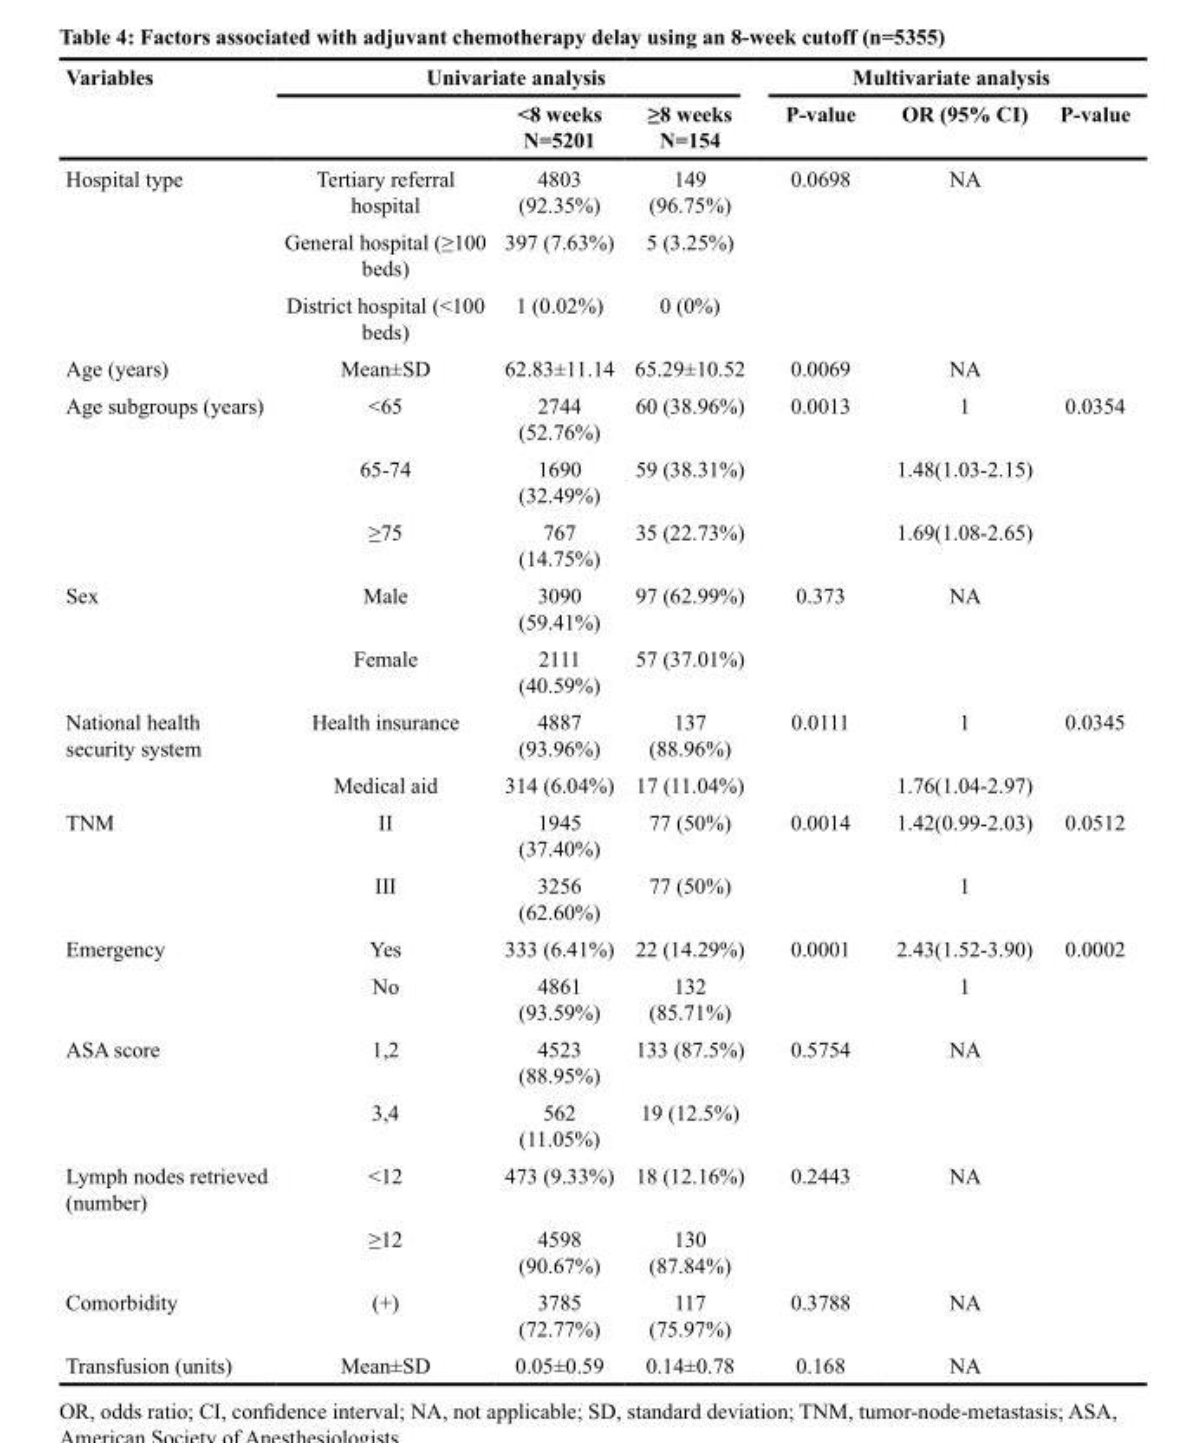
<table><thead><tr><td rowspan="2">Variables</td><td colspan="3">Univariate analysis</td><td colspan="3">Multivariate analysis</td></tr><tr><td></td><td>&lt;8 weeks N=5201</td><td>≥8 weeks N=154</td><td>P-value</td><td>OR (95% CI)</td><td>P-value</td></tr></thead><tbody><tr><td rowspan="3">Hospital type</td><td>Tertiary referral hospital</td><td>4803 (92.35%)</td><td>149 (96.75%)</td><td>0.0698</td><td>NA</td><td></td></tr><tr><td>General hospital (≥100 beds)</td><td>397 (7.63%)</td><td>5 (3.25%)</td><td></td><td></td><td></td></tr><tr><td>District hospital (&lt;100 beds)</td><td>1 (0.02%)</td><td>0 (0%)</td><td></td><td></td><td></td></tr><tr><td>Age (years)</td><td>Mean±SD</td><td>62.83±11.14</td><td>65.29±10.52</td><td>0.0069</td><td>NA</td><td></td></tr><tr><td rowspan="3">Age subgroups (years)</td><td>&lt;65</td><td>2744 (52.76%)</td><td>60 (38.96%)</td><td>0.0013</td><td>1</td><td>0.0354</td></tr><tr><td>65-74</td><td>1690 (32.49%)</td><td>59 (38.31%)</td><td></td><td>1.48(1.03-2.15)</td><td></td></tr><tr><td>≥75</td><td>767 (14.75%)</td><td>35 (22.73%)</td><td></td><td>1.69(1.08-2.65)</td><td></td></tr><tr><td rowspan="2">Sex</td><td>Male</td><td>3090 (59.41%)</td><td>97 (62.99%)</td><td>0.373</td><td>NA</td><td></td></tr><tr><td>Female</td><td>2111 (40.59%)</td><td>57 (37.01%)</td><td></td><td></td><td></td></tr><tr><td rowspan="2">National health security system</td><td>Health insurance</td><td>4887 (93.96%)</td><td>137 (88.96%)</td><td>0.0111</td><td>1</td><td>0.0345</td></tr><tr><td>Medical aid</td><td>314 (6.04%)</td><td>17 (11.04%)</td><td></td><td>1.76(1.04-2.97)</td><td></td></tr><tr><td rowspan="2">TNM</td><td>II</td><td>1945 (37.40%)</td><td>77 (50%)</td><td>0.0014</td><td>1.42(0.99-2.03)</td><td>0.0512</td></tr><tr><td>III</td><td>3256 (62.60%)</td><td>77 (50%)</td><td></td><td>1</td><td></td></tr><tr><td rowspan="2">Emergency</td><td>Yes</td><td>333 (6.41%)</td><td>22 (14.29%)</td><td>0.0001</td><td>2.43(1.52-3.90)</td><td>0.0002</td></tr><tr><td>No</td><td>4861 (93.59%)</td><td>132 (85.71%)</td><td></td><td>1</td><td></td></tr><tr><td rowspan="2">ASA score</td><td>1,2</td><td>4523 (88.95%)</td><td>133 (87.5%)</td><td>0.5754</td><td>NA</td><td></td></tr><tr><td>3,4</td><td>562 (11.05%)</td><td>19 (12.5%)</td><td></td><td></td><td></td></tr><tr><td rowspan="2">Lymph nodes retrieved (number)</td><td>&lt;12</td><td>473 (9.33%)</td><td>18 (12.16%)</td><td>0.2443</td><td>NA</td><td></td></tr><tr><td>≥12</td><td>4598 (90.67%)</td><td>130 (87.84%)</td><td></td><td></td><td></td></tr><tr><td>Comorbidity</td><td>(+)</td><td>3785 (72.77%)</td><td>117 (75.97%)</td><td>0.3788</td><td>NA</td><td></td></tr><tr><td>Transfusion (units)</td><td>Mean±SD</td><td>0.05±0.59</td><td>0.14±0.78</td><td>0.168</td><td>NA</td><td></td></tr></tbody></table>